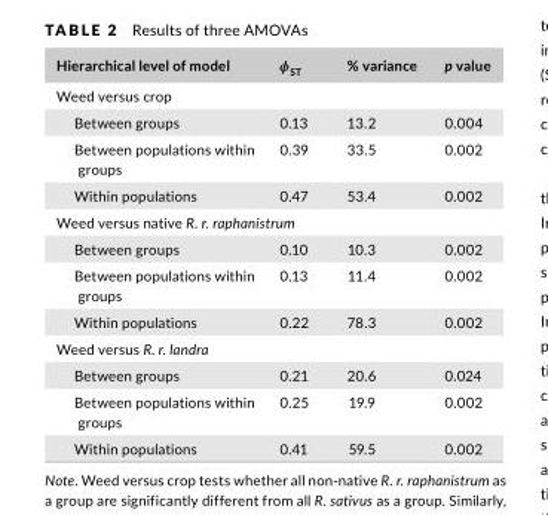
<table><thead><tr><td>Hierarchical level of model</td><td>ϕ<sub>ST</sub></td><td>% variance</td><td>p value</td></tr></thead><tbody><tr><td colspan="4">Weed versus crop</td></tr><tr><td>Between groups</td><td>0.13</td><td>13.2</td><td>0.004</td></tr><tr><td>Between populations within groups</td><td>0.39</td><td>33.5</td><td>0.002</td></tr><tr><td>Within populations</td><td>0.47</td><td>53.4</td><td>0.002</td></tr><tr><td colspan="4">Weed versus native R. r. raphanistrum</td></tr><tr><td>Between groups</td><td>0.10</td><td>10.3</td><td>0.002</td></tr><tr><td>Between populations within groups</td><td>0.13</td><td>11.4</td><td>0.002</td></tr><tr><td>Within populations</td><td>0.22</td><td>78.3</td><td>0.002</td></tr><tr><td colspan="4">Weed versus R. r. landra</td></tr><tr><td>Between groups</td><td>0.21</td><td>20.6</td><td>0.024</td></tr><tr><td>Between populations within groups</td><td>0.25</td><td>19.9</td><td>0.002</td></tr><tr><td>Within populations</td><td>0.41</td><td>59.5</td><td>0.002</td></tr></tbody></table>